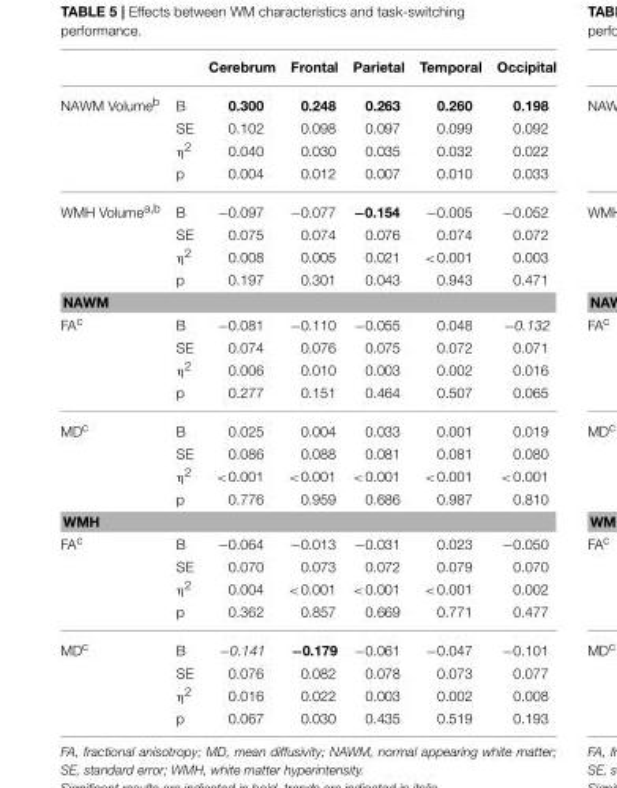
<table><thead><tr><td></td><td></td><td>Cerebrum</td><td>Frontal</td><td>Parietal</td><td>Temporal</td><td>Occipital</td></tr></thead><tbody><tr><td rowspan="4">NAWM Volume<sup>b</sup></td><td>B</td><td>0.300</td><td>0.248</td><td>0.263</td><td>0.260</td><td>0.198</td></tr><tr><td>SE</td><td>0.102</td><td>0.098</td><td>0.097</td><td>0.099</td><td>0.092</td></tr><tr><td>η<sup>2</sup></td><td>0.040</td><td>0.030</td><td>0.035</td><td>0.032</td><td>0.022</td></tr><tr><td>p</td><td>0.004</td><td>0.012</td><td>0.007</td><td>0.010</td><td>0.033</td></tr><tr><td rowspan="4">WMH Volume<sup>a,b</sup></td><td>B</td><td>−0.097</td><td>−0.077</td><td>−0.154</td><td>−0.005</td><td>−0.052</td></tr><tr><td>SE</td><td>0.075</td><td>0.074</td><td>0.076</td><td>0.074</td><td>0.072</td></tr><tr><td>η<sup>2</sup></td><td>0.008</td><td>0.005</td><td>0.021</td><td>&lt;0.001</td><td>0.003</td></tr><tr><td>p</td><td>0.197</td><td>0.301</td><td>0.043</td><td>0.943</td><td>0.471</td></tr><tr><td colspan="7">NAWM</td></tr><tr><td rowspan="4">FA<sup>c</sup></td><td>B</td><td>−0.081</td><td>−0.110</td><td>−0.055</td><td>0.048</td><td>−0.132</td></tr><tr><td>SE</td><td>0.074</td><td>0.076</td><td>0.075</td><td>0.072</td><td>0.071</td></tr><tr><td>η<sup>2</sup></td><td>0.006</td><td>0.010</td><td>0.003</td><td>0.002</td><td>0.016</td></tr><tr><td>p</td><td>0.277</td><td>0.151</td><td>0.464</td><td>0.507</td><td>0.065</td></tr><tr><td rowspan="4">MD<sup>c</sup></td><td>B</td><td>0.025</td><td>0.004</td><td>0.033</td><td>0.001</td><td>0.019</td></tr><tr><td>SE</td><td>0.086</td><td>0.088</td><td>0.081</td><td>0.081</td><td>0.080</td></tr><tr><td>η<sup>2</sup></td><td>&lt;0.001</td><td>&lt;0.001</td><td>&lt;0.001</td><td>&lt;0.001</td><td>&lt;0.001</td></tr><tr><td>p</td><td>0.776</td><td>0.959</td><td>0.686</td><td>0.987</td><td>0.810</td></tr><tr><td colspan="7">WMH</td></tr><tr><td rowspan="4">FA<sup>c</sup></td><td>B</td><td>−0.064</td><td>−0.013</td><td>−0.031</td><td>0.023</td><td>−0.050</td></tr><tr><td>SE</td><td>0.070</td><td>0.073</td><td>0.072</td><td>0.079</td><td>0.070</td></tr><tr><td>η<sup>2</sup></td><td>0.004</td><td>&lt;0.001</td><td>&lt;0.001</td><td>&lt;0.001</td><td>0.002</td></tr><tr><td>p</td><td>0.362</td><td>0.857</td><td>0.669</td><td>0.771</td><td>0.477</td></tr><tr><td rowspan="4">MD<sup>c</sup></td><td>B</td><td>−0.141</td><td>−0.179</td><td>−0.061</td><td>−0.047</td><td>−0.101</td></tr><tr><td>SE</td><td>0.076</td><td>0.082</td><td>0.078</td><td>0.073</td><td>0.077</td></tr><tr><td>η<sup>2</sup></td><td>0.016</td><td>0.022</td><td>0.003</td><td>0.002</td><td>0.008</td></tr><tr><td>p</td><td>0.067</td><td>0.030</td><td>0.435</td><td>0.519</td><td>0.193</td></tr></tbody></table>